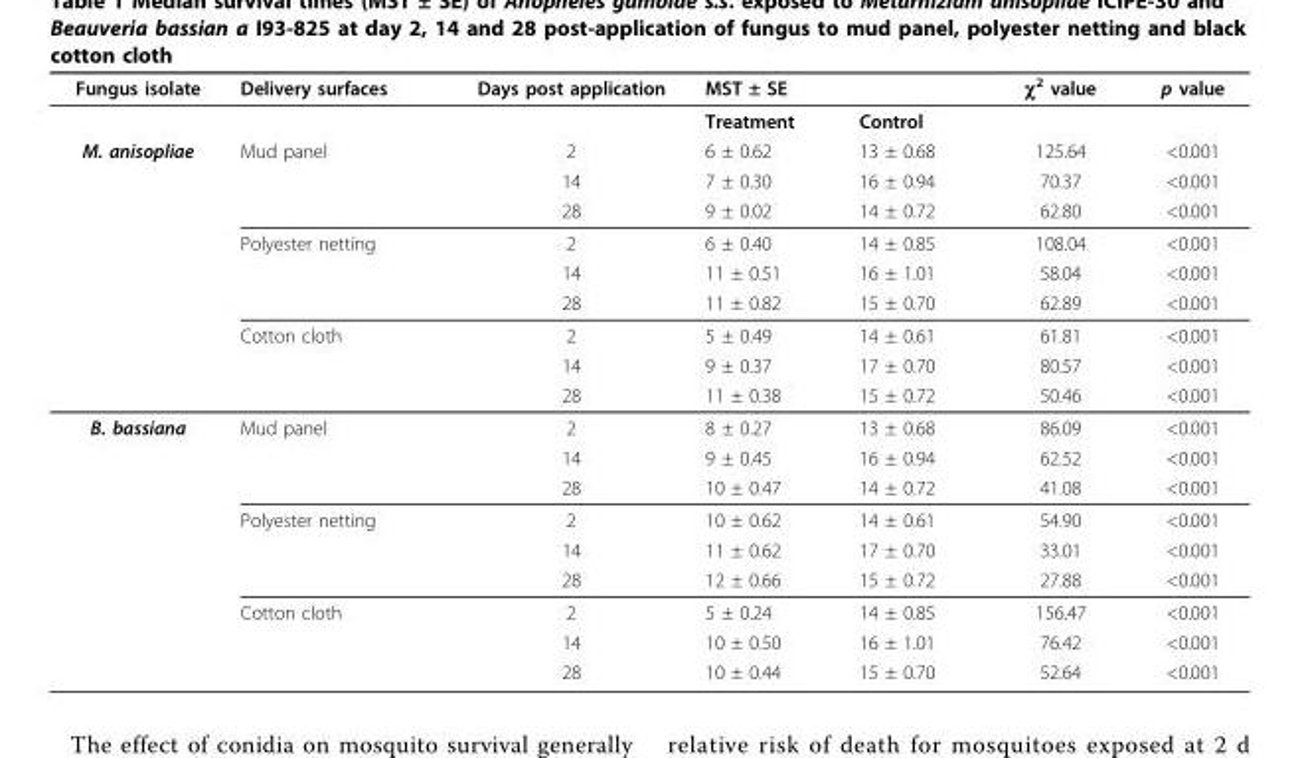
<table><thead><tr><td rowspan="2">Fungus isolate</td><td rowspan="2">Delivery surfaces</td><td rowspan="2">Days post application</td><td colspan="2">MST ± SE</td><td rowspan="2">χ<sup>2</sup> value</td><td rowspan="2">p value</td></tr><tr><td>Treatment</td><td>Control</td></tr></thead><tbody><tr><td rowspan="9">M. anisopliae</td><td>Mud panel</td><td>2</td><td>6 ± 0.62</td><td>13 ± 0.68</td><td>125.64</td><td>&lt;0.001</td></tr><tr><td></td><td>14</td><td>7 ± 0.30</td><td>16 ± 0.94</td><td>70.37</td><td>&lt;0.001</td></tr><tr><td></td><td>28</td><td>9 ± 0.02</td><td>14 ± 0.72</td><td>62.80</td><td>&lt;0.001</td></tr><tr><td>Polyester netting</td><td>2</td><td>6 ± 0.40</td><td>14 ± 0.85</td><td>108.04</td><td>&lt;0.001</td></tr><tr><td></td><td>14</td><td>11 ± 0.51</td><td>16 ± 1.01</td><td>58.04</td><td>&lt;0.001</td></tr><tr><td></td><td>28</td><td>11 ± 0.82</td><td>15 ± 0.70</td><td>62.89</td><td>&lt;0.001</td></tr><tr><td>Cotton cloth</td><td>2</td><td>5 ± 0.49</td><td>14 ± 0.61</td><td>61.81</td><td>&lt;0.001</td></tr><tr><td></td><td>14</td><td>9 ± 0.37</td><td>17 ± 0.70</td><td>80.57</td><td>&lt;0.001</td></tr><tr><td></td><td>28</td><td>11 ± 0.38</td><td>15 ± 0.72</td><td>50.46</td><td>&lt;0.001</td></tr><tr><td rowspan="9">B. bassiana</td><td>Mud panel</td><td>2</td><td>8 ± 0.27</td><td>13 ± 0.68</td><td>86.09</td><td>&lt;0.001</td></tr><tr><td></td><td>14</td><td>9 ± 0.45</td><td>16 ± 0.94</td><td>62.52</td><td>&lt;0.001</td></tr><tr><td></td><td>28</td><td>10 ± 0.47</td><td>14 ± 0.72</td><td>41.08</td><td>&lt;0.001</td></tr><tr><td>Polyester netting</td><td>2</td><td>10 ± 0.62</td><td>14 ± 0.61</td><td>54.90</td><td>&lt;0.001</td></tr><tr><td></td><td>14</td><td>11 ± 0.62</td><td>17 ± 0.70</td><td>33.01</td><td>&lt;0.001</td></tr><tr><td></td><td>28</td><td>12 ± 0.66</td><td>15 ± 0.72</td><td>27.88</td><td>&lt;0.001</td></tr><tr><td>Cotton cloth</td><td>2</td><td>5 ± 0.24</td><td>14 ± 0.85</td><td>156.47</td><td>&lt;0.001</td></tr><tr><td></td><td>14</td><td>10 ± 0.50</td><td>16 ± 1.01</td><td>76.42</td><td>&lt;0.001</td></tr><tr><td></td><td>28</td><td>10 ± 0.44</td><td>15 ± 0.70</td><td>52.64</td><td>&lt;0.001</td></tr></tbody></table>